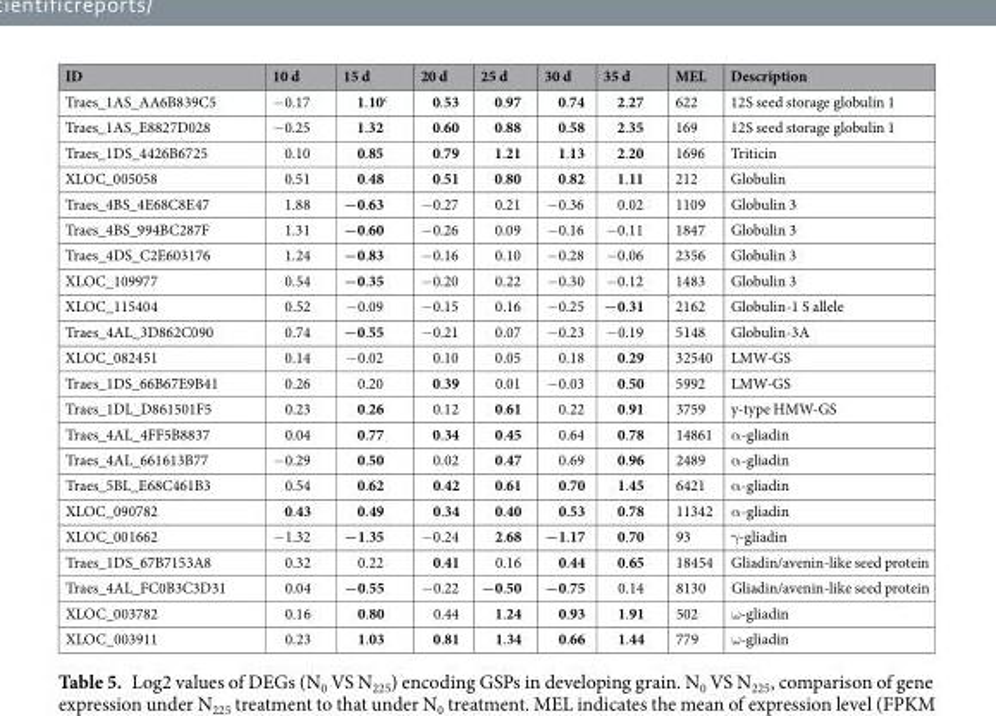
<table><thead><tr><td>ID</td><td>10 d</td><td>15 d</td><td>20 d</td><td>25 d</td><td>30 d</td><td>35 d</td><td>MEL</td><td>Description</td></tr></thead><tbody><tr><td>Traes_1AS_AA6B839C5</td><td>−0.17</td><td>1.10<sup>c</sup></td><td>0.53</td><td>0.97</td><td>0.74</td><td>2.27</td><td>622</td><td>12S seed storage globulin 1</td></tr><tr><td>Traes_1AS_E8827D028</td><td>−0.25</td><td>1.32</td><td>0.60</td><td>0.88</td><td>0.58</td><td>2.35</td><td>169</td><td>12S seed storage globulin 1</td></tr><tr><td>Traes_1DS_4426B6725</td><td>0.10</td><td>0.85</td><td>0.79</td><td>1.21</td><td>1.13</td><td>2.20</td><td>1696</td><td>Triticin</td></tr><tr><td>XLOC_005058</td><td>0.51</td><td>0.48</td><td>0.51</td><td>0.80</td><td>0.82</td><td>1.11</td><td>212</td><td>Globulin</td></tr><tr><td>Traes_4BS_4E68C8E47</td><td>1.88</td><td>−0.63</td><td>−0.27</td><td>0.21</td><td>−0.36</td><td>0.02</td><td>1109</td><td>Globulin 3</td></tr><tr><td>Traes_4BS_994BC287F</td><td>1.31</td><td>−0.60</td><td>−0.26</td><td>0.09</td><td>−0.16</td><td>−0.11</td><td>1847</td><td>Globulin 3</td></tr><tr><td>Traes_4DS_C2E603176</td><td>1.24</td><td>−0.83</td><td>−0.16</td><td>0.10</td><td>−0.28</td><td>−0.06</td><td>2356</td><td>Globulin 3</td></tr><tr><td>XLOC_109977</td><td>0.54</td><td>−0.35</td><td>−0.20</td><td>0.22</td><td>−0.30</td><td>−0.12</td><td>1483</td><td>Globulin 3</td></tr><tr><td>XLOC_115404</td><td>0.52</td><td>−0.09</td><td>−0.15</td><td>0.16</td><td>−0.25</td><td>−0.31</td><td>2162</td><td>Globulin-1 S allele</td></tr><tr><td>Traes_4AL_3D862C090</td><td>0.74</td><td>−0.55</td><td>−0.21</td><td>0.07</td><td>−0.23</td><td>−0.19</td><td>5148</td><td>Globulin-3A</td></tr><tr><td>XLOC_082451</td><td>0.14</td><td>−0.02</td><td>0.10</td><td>0.05</td><td>0.18</td><td>0.29</td><td>32540</td><td>LMW-GS</td></tr><tr><td>Traes_1DS_66B67E9B41</td><td>0.26</td><td>0.20</td><td>0.39</td><td>0.01</td><td>−0.03</td><td>0.50</td><td>5992</td><td>LMW-GS</td></tr><tr><td>Traes_1DL_D861501F5</td><td>0.23</td><td>0.26</td><td>0.12</td><td>0.61</td><td>0.22</td><td>0.91</td><td>3759</td><td>y-type HMW-GS</td></tr><tr><td>Traes_4AL_4FF5B8837</td><td>0.04</td><td>0.77</td><td>0.34</td><td>0.45</td><td>0.64</td><td>0.78</td><td>14861</td><td>α-gliadin</td></tr><tr><td>Traes_4AL_661613B77</td><td>−0.29</td><td>0.50</td><td>0.02</td><td>0.47</td><td>0.69</td><td>0.96</td><td>2489</td><td>α-gliadin</td></tr><tr><td>Traes_5BL_E68C461B3</td><td>0.54</td><td>0.62</td><td>0.42</td><td>0.61</td><td>0.70</td><td>1.45</td><td>6421</td><td>α-gliadin</td></tr><tr><td>XLOC_090782</td><td>0.43</td><td>0.49</td><td>0.34</td><td>0.40</td><td>0.53</td><td>0.78</td><td>11342</td><td>α-gliadin</td></tr><tr><td>XLOC_001662</td><td>−1.32</td><td>−1.35</td><td>−0.24</td><td>2.68</td><td>−1.17</td><td>0.70</td><td>93</td><td>γ-gliadin</td></tr><tr><td>Traes_1DS_67B7153A8</td><td>0.32</td><td>0.22</td><td>0.41</td><td>0.16</td><td>0.44</td><td>0.65</td><td>18454</td><td>Gliadin/avenin-like seed protein</td></tr><tr><td>Traes_4AL_FC0B3C3D31</td><td>0.04</td><td>−0.55</td><td>−0.22</td><td>−0.50</td><td>−0.75</td><td>0.14</td><td>8130</td><td>Gliadin/avenin-like seed protein</td></tr><tr><td>XLOC_003782</td><td>0.16</td><td>0.80</td><td>0.44</td><td>1.24</td><td>0.93</td><td>1.91</td><td>502</td><td>ω-gliadin</td></tr><tr><td>XLOC_003911</td><td>0.23</td><td>1.03</td><td>0.81</td><td>1.34</td><td>0.66</td><td>1.44</td><td>779</td><td>ω-gliadin</td></tr></tbody></table>